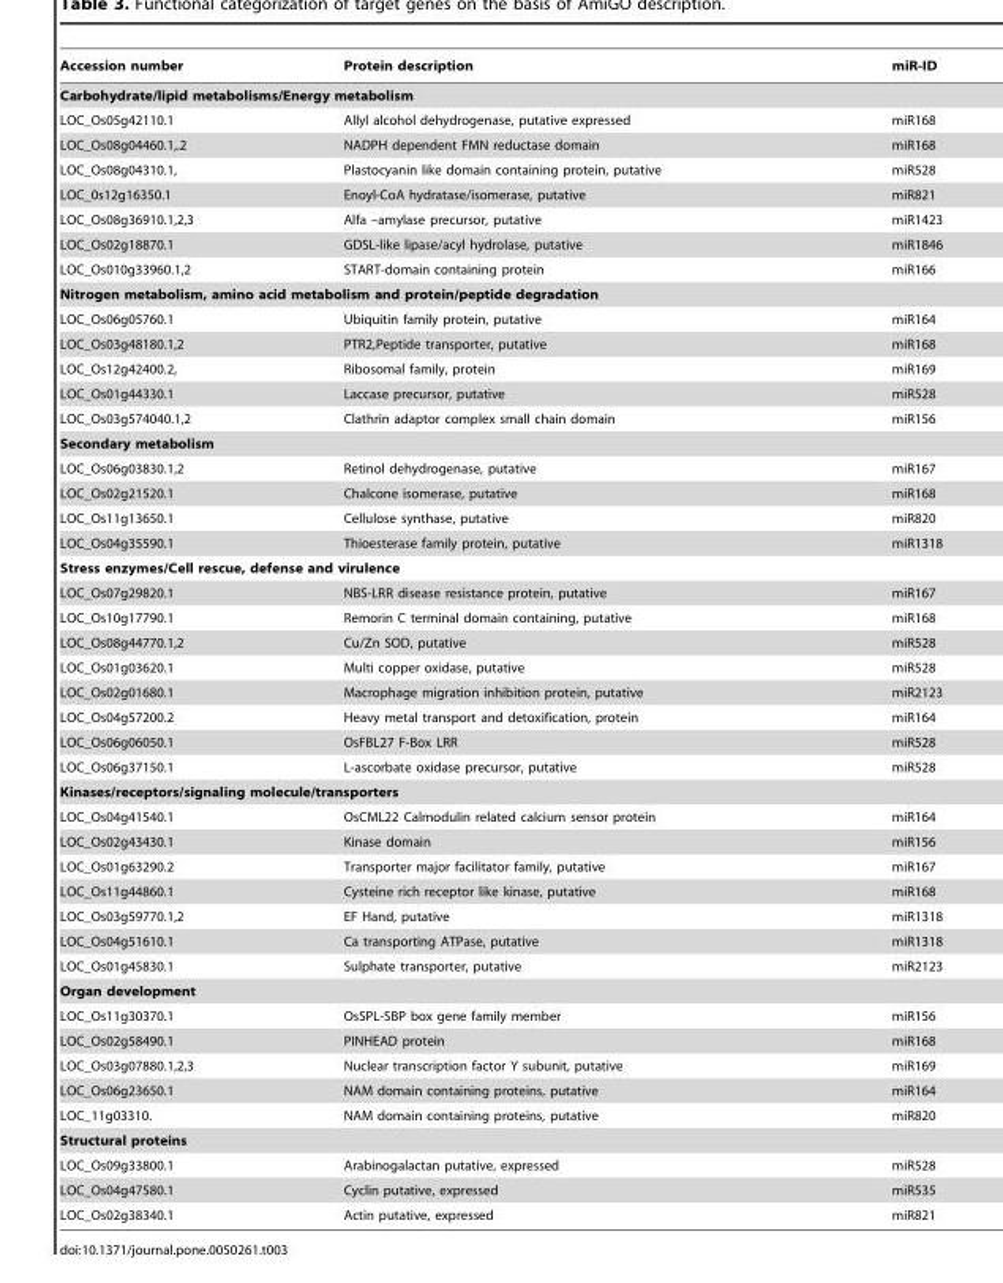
<table><thead><tr><td>Accession number</td><td>Protein description</td><td>miR-ID</td></tr></thead><tbody><tr><td colspan="3">Carbohydrate/lipid metabolisms/Energy metabolism</td></tr><tr><td>LOC_Os05g42110.1</td><td>Allyl alcohol dehydrogenase, putative expressed</td><td>miR168</td></tr><tr><td>LOC_Os08g04460.1,.2</td><td>NADPH dependent FMN reductase domain</td><td>miR168</td></tr><tr><td>LOC_Os08g04310.1,</td><td>Plastocyanin like domain containing protein, putative</td><td>miR528</td></tr><tr><td>LOC_0s12g16350.1</td><td>Enoyl-CoA hydratase/isomerase, putative</td><td>miR821</td></tr><tr><td>LOC_Os08g36910.1,2,3</td><td>Alfa –amylase precursor, putative</td><td>miR1423</td></tr><tr><td>LOC_Os02g18870.1</td><td>GDSL-like lipase/acyl hydrolase, putative</td><td>miR1846</td></tr><tr><td>LOC_Os010g33960.1,2</td><td>START-domain containing protein</td><td>miR166</td></tr><tr><td colspan="3">Nitrogen metabolism, amino acid metabolism and protein/peptide degradation</td></tr><tr><td>LOC_Os06g05760.1</td><td>Ubiquitin family protein, putative</td><td>miR164</td></tr><tr><td>LOC_Os03g48180.1,2</td><td>PTR2,Peptide transporter, putative</td><td>miR168</td></tr><tr><td>LOC_Os12g42400.2,</td><td>Ribosomal family, protein</td><td>miR169</td></tr><tr><td>LOC_Os01g44330.1</td><td>Laccase precursor, putative</td><td>miR528</td></tr><tr><td>LOC_Os03g574040.1,2</td><td>Clathrin adaptor complex small chain domain</td><td>miR156</td></tr><tr><td colspan="3">Secondary metabolism</td></tr><tr><td>LOC_Os06g03830.1,2</td><td>Retinol dehydrogenase, putative</td><td>miR167</td></tr><tr><td>LOC_Os02g21520.1</td><td>Chalcone isomerase, putative</td><td>miR168</td></tr><tr><td>LOC_Os11g13650.1</td><td>Cellulose synthase, putative</td><td>miR820</td></tr><tr><td>LOC_Os04g35590.1</td><td>Thioesterase family protein, putative</td><td>miR1318</td></tr><tr><td colspan="3">Stress enzymes/Cell rescue, defense and virulence</td></tr><tr><td>LOC_Os07g29820.1</td><td>NBS-LRR disease resistance protein, putative</td><td>miR167</td></tr><tr><td>LOC_Os10g17790.1</td><td>Remorin C terminal domain containing, putative</td><td>miR168</td></tr><tr><td>LOC_Os08g44770.1,2</td><td>Cu/Zn SOD, putative</td><td>miR528</td></tr><tr><td>LOC_Os01g03620.1</td><td>Multi copper oxidase, putative</td><td>miR528</td></tr><tr><td>LOC_Os02g01680.1</td><td>Macrophage migration inhibition protein, putative</td><td>miR2123</td></tr><tr><td>LOC_Os04g57200.2</td><td>Heavy metal transport and detoxification, protein</td><td>miR164</td></tr><tr><td>LOC_Os06g06050.1</td><td>OsFBL27 F-Box LRR</td><td>miR528</td></tr><tr><td>LOC_Os06g37150.1</td><td>L-ascorbate oxidase precursor, putative</td><td>miR528</td></tr><tr><td colspan="3">Kinases/receptors/signaling molecule/transporters</td></tr><tr><td>LOC_Os04g41540.1</td><td>OsCML22 Calmodulin related calcium sensor protein</td><td>miR164</td></tr><tr><td>LOC_Os02g43430.1</td><td>Kinase domain</td><td>miR156</td></tr><tr><td>LOC_Os01g63290.2</td><td>Transporter major facilitator family, putative</td><td>miR167</td></tr><tr><td>LOC_Os11g44860.1</td><td>Cysteine rich receptor like kinase, putative</td><td>miR168</td></tr><tr><td>LOC_Os03g59770.1,2</td><td>EF Hand, putative</td><td>miR1318</td></tr><tr><td>LOC_Os04g51610.1</td><td>Ca transporting ATPase, putative</td><td>miR1318</td></tr><tr><td>LOC_Os01g45830.1</td><td>Sulphate transporter, putative</td><td>miR2123</td></tr><tr><td colspan="3">Organ development</td></tr><tr><td>LOC_Os11g30370.1</td><td>OsSPL-SBP box gene family member</td><td>miR156</td></tr><tr><td>LOC_Os02g58490.1</td><td>PINHEAD protein</td><td>miR168</td></tr><tr><td>LOC_Os03g07880.1,2,3</td><td>Nuclear transcription factor Y subunit, putative</td><td>miR169</td></tr><tr><td>LOC_Os06g23650.1</td><td>NAM domain containing proteins, putative</td><td>miR164</td></tr><tr><td>LOC_11g03310.</td><td>NAM domain containing proteins, putative</td><td>miR820</td></tr><tr><td colspan="3">Structural proteins</td></tr><tr><td>LOC_Os09g33800.1</td><td>Arabinogalactan putative, expressed</td><td>miR528</td></tr><tr><td>LOC_Os04g47580.1</td><td>Cyclin putative, expressed</td><td>miR535</td></tr><tr><td>LOC_Os02g38340.1</td><td>Actin putative, expressed</td><td>miR821</td></tr></tbody></table>